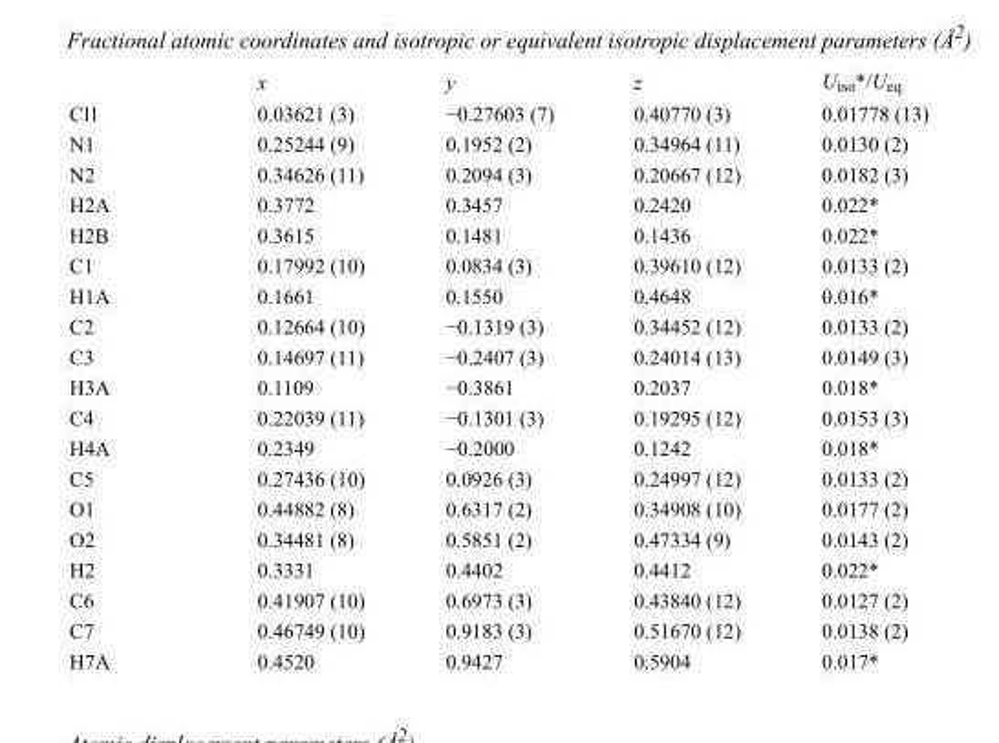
<table><thead><tr><td></td><td>x</td><td>y</td><td>z</td><td>U<sub>iso</sub>*/U<sub>eq</sub></td></tr></thead><tbody><tr><td>Cl1</td><td>0.03621 (3)</td><td>−0.27603 (7)</td><td>0.40770 (3)</td><td>0.01778 (13)</td></tr><tr><td>N1</td><td>0.25244 (9)</td><td>0.1952 (2)</td><td>0.34964 (11)</td><td>0.0130 (2)</td></tr><tr><td>N2</td><td>0.34626 (11)</td><td>0.2094 (3)</td><td>0.20667 (12)</td><td>0.0182 (3)</td></tr><tr><td>H2A</td><td>0.3772</td><td>0.3457</td><td>0.2420</td><td>0.022*</td></tr><tr><td>H2B</td><td>0.3615</td><td>0.1481</td><td>0.1436</td><td>0.022*</td></tr><tr><td>C1</td><td>0.17992 (10)</td><td>0.0834 (3)</td><td>0.39610 (12)</td><td>0.0133 (2)</td></tr><tr><td>H1A</td><td>0.1661</td><td>0.1550</td><td>0.4648</td><td>0.016*</td></tr><tr><td>C2</td><td>0.12664 (10)</td><td>−0.1319 (3)</td><td>0.34452 (12)</td><td>0.0133 (2)</td></tr><tr><td>C3</td><td>0.14697 (11)</td><td>−0.2407 (3)</td><td>0.24014 (13)</td><td>0.0149 (3)</td></tr><tr><td>H3A</td><td>0.1109</td><td>−0.3861</td><td>0.2037</td><td>0.018*</td></tr><tr><td>C4</td><td>0.22039 (11)</td><td>−0.1301 (3)</td><td>0.19295 (12)</td><td>0.0153 (3)</td></tr><tr><td>H4A</td><td>0.2349</td><td>−0.2000</td><td>0.1242</td><td>0.018*</td></tr><tr><td>C5</td><td>0.27436 (10)</td><td>0.0926 (3)</td><td>0.24997 (12)</td><td>0.0133 (2)</td></tr><tr><td>O1</td><td>0.44882 (8)</td><td>0.6317 (2)</td><td>0.34908 (10)</td><td>0.0177 (2)</td></tr><tr><td>O2</td><td>0.34481 (8)</td><td>0.5851 (2)</td><td>0.47334 (9)</td><td>0.0143 (2)</td></tr><tr><td>H2</td><td>0.3331</td><td>0.4402</td><td>0.4412</td><td>0.022*</td></tr><tr><td>C6</td><td>0.41907 (10)</td><td>0.6973 (3)</td><td>0.43840 (12)</td><td>0.0127 (2)</td></tr><tr><td>C7</td><td>0.46749 (10)</td><td>0.9183 (3)</td><td>0.51670 (12)</td><td>0.0138 (2)</td></tr><tr><td>H7A</td><td>0.4520</td><td>0.9427</td><td>0.5904</td><td>0.017*</td></tr></tbody></table>